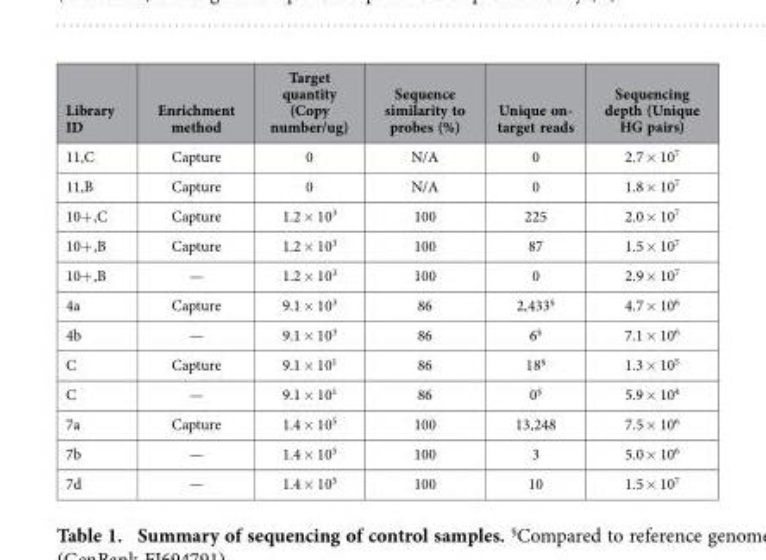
<table><thead><tr><td>Library ID</td><td>Enrichment method</td><td>Target quantity (Copy number/ug)</td><td>Sequence similarity to probes (%)</td><td>Unique on- target reads</td><td>Sequencing depth (Unique HG pairs)</td></tr></thead><tbody><tr><td>11,C</td><td>Capture</td><td>0</td><td>N/A</td><td>0</td><td>2.7 × 10<sup>7</sup></td></tr><tr><td>11,B</td><td>Capture</td><td>0</td><td>N/A</td><td>0</td><td>1.8 × 10<sup>7</sup></td></tr><tr><td>10+ ,C</td><td>Capture</td><td>1.2 × 10<sup>3</sup></td><td>100</td><td>225</td><td>2.0 × 10<sup>7</sup></td></tr><tr><td>10+ ,B</td><td>Capture</td><td>1.2 × 10<sup>3</sup></td><td>100</td><td>87</td><td>1.5 × 10<sup>7</sup></td></tr><tr><td>10+ ,B</td><td>—</td><td>1.2 × 10<sup>3</sup></td><td>100</td><td>0</td><td>2.9 × 10<sup>7</sup></td></tr><tr><td>4a</td><td>Capture</td><td>9.1 × 10<sup>3</sup></td><td>86</td><td>2,433§</td><td>4.7 × 10<sup>6</sup></td></tr><tr><td>4b</td><td>—</td><td>9.1 × 10<sup>3</sup></td><td>86</td><td>6§</td><td>7.1 × 10<sup>6</sup></td></tr><tr><td>C</td><td>Capture</td><td>9.1 × 10<sup>1</sup></td><td>86</td><td>18§</td><td>1.3 × 10<sup>5</sup></td></tr><tr><td>C</td><td>—</td><td>9.1 × 10<sup>1</sup></td><td>86</td><td>0§</td><td>5.9 × 10<sup>4</sup></td></tr><tr><td>7a</td><td>Capture</td><td>1.4 × 10<sup>5</sup></td><td>100</td><td>13,248</td><td>7.5 × 10<sup>6</sup></td></tr><tr><td>7b</td><td>—</td><td>1.4 × 10<sup>5</sup></td><td>100</td><td>3</td><td>5.0 × 10<sup>6</sup></td></tr><tr><td>7d</td><td>—</td><td>1.4 × 10<sup>5</sup></td><td>100</td><td>10</td><td>1.5 × 10<sup>7</sup></td></tr></tbody></table>